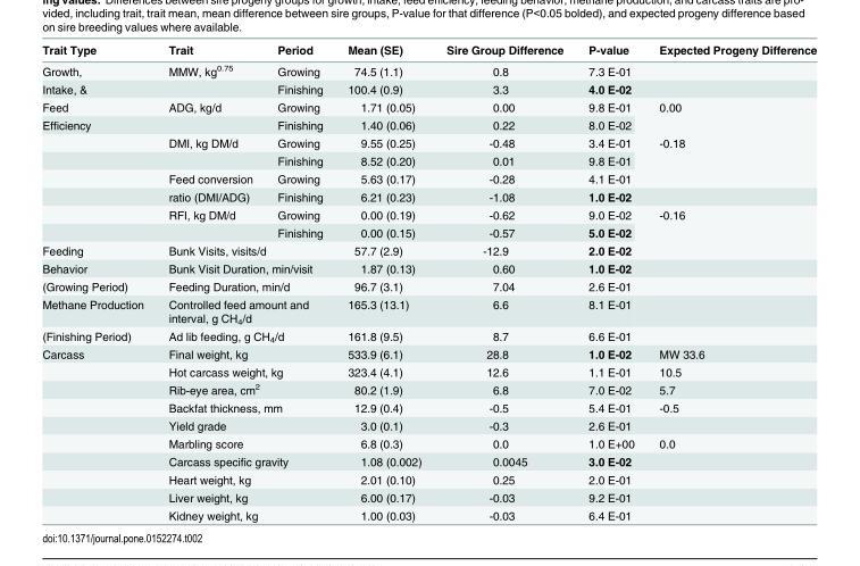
<table><thead><tr><td>Trait Type</td><td>Trait</td><td>Period</td><td>Mean (SE)</td><td>Sire Group Difference</td><td>P-value</td><td>Expected Progeny Difference</td></tr></thead><tbody><tr><td>Growth,</td><td>MMW, kg<sup>0.75</sup></td><td>Growing</td><td>74.5 (1.1)</td><td>0.8</td><td>7.3 E-01</td><td></td></tr><tr><td>Intake, &amp;</td><td></td><td>Finishing</td><td>100.4 (0.9)</td><td>3.3</td><td>4.0 E-02</td><td></td></tr><tr><td>Feed</td><td>ADG, kg/d</td><td>Growing</td><td>1.71 (0.05)</td><td>0.00</td><td>9.8 E-01</td><td rowspan="2">0.00</td></tr><tr><td rowspan="7">Efficiency</td><td></td><td>Finishing</td><td>1.40 (0.06)</td><td>0.22</td><td>8.0 E-02</td></tr><tr><td>DMI, kg DM/d</td><td>Growing</td><td>9.55 (0.25)</td><td>-0.48</td><td>3.4 E-01</td><td rowspan="2">-0.18</td></tr><tr><td></td><td>Finishing</td><td>8.52 (0.20)</td><td>0.01</td><td>9.8 E-01</td></tr><tr><td>Feed conversion</td><td>Growing</td><td>5.63 (0.17)</td><td>-0.28</td><td>4.1 E-01</td><td></td></tr><tr><td>ratio (DMI/ADG)</td><td>Finishing</td><td>6.21 (0.23)</td><td>-1.08</td><td>1.0 E-02</td><td></td></tr><tr><td>RFI, kg DM/d</td><td>Growing</td><td>0.00 (0.19)</td><td>-0.62</td><td>9.0 E-02</td><td rowspan="2">-0.16</td></tr><tr><td></td><td>Finishing</td><td>0.00 (0.15)</td><td>-0.57</td><td>5.0 E-02</td></tr><tr><td>Feeding</td><td colspan="2">Bunk Visits, visits/d</td><td>57.7 (2.9)</td><td>-12.9</td><td>2.0 E-02</td><td></td></tr><tr><td>Behavior</td><td colspan="2">Bunk Visit Duration, min/visit</td><td>1.87 (0.13)</td><td>0.60</td><td>1.0 E-02</td><td></td></tr><tr><td>(Growing Period)</td><td colspan="2">Feeding Duration, min/d</td><td>96.7 (3.1)</td><td>7.04</td><td>2.6 E-01</td><td></td></tr><tr><td>Methane Production</td><td colspan="2">Controlled feed amount and interval, g CH<sub>4</sub>/d</td><td>165.3 (13.1)</td><td>6.6</td><td>8.1 E-01</td><td></td></tr><tr><td>(Finishing Period)</td><td colspan="2">Ad lib feeding, g CH<sub>4</sub>/d</td><td>161.8 (9.5)</td><td>8.7</td><td>6.6 E-01</td><td></td></tr><tr><td rowspan="10">Carcass</td><td colspan="2">Final weight, kg</td><td>533.9 (6.1)</td><td>28.8</td><td>1.0 E-02</td><td>MW 33.6</td></tr><tr><td colspan="2">Hot carcass weight, kg</td><td>323.4 (4.1)</td><td>12.6</td><td>1.1 E-01</td><td>10.5</td></tr><tr><td colspan="2">Rib-eye area, cm<sup>2</sup></td><td>80.2 (1.9)</td><td>6.8</td><td>7.0 E-02</td><td>5.7</td></tr><tr><td colspan="2">Backfat thickness, mm</td><td>12.9 (0.4)</td><td>-0.5</td><td>5.4 E-01</td><td>-0.5</td></tr><tr><td colspan="2">Yield grade</td><td>3.0 (0.1)</td><td>-0.3</td><td>2.6 E-01</td><td></td></tr><tr><td colspan="2">Marbling score</td><td>6.8 (0.3)</td><td>0.0</td><td>1.0 E+00</td><td>0.0</td></tr><tr><td colspan="2">Carcass specific gravity</td><td>1.08 (0.002)</td><td>0.0045</td><td>3.0 E-02</td><td></td></tr><tr><td colspan="2">Heart weight, kg</td><td>2.01 (0.10)</td><td>0.25</td><td>2.0 E-01</td><td></td></tr><tr><td colspan="2">Liver weight, kg</td><td>6.00 (0.17)</td><td>-0.03</td><td>9.2 E-01</td><td></td></tr><tr><td colspan="2">Kidney weight, kg</td><td>1.00 (0.03)</td><td>-0.03</td><td>6.4 E-01</td><td></td></tr></tbody></table>